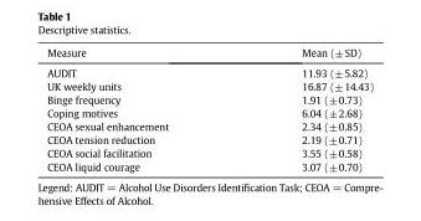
<table><thead><tr><td>Measure</td><td>Mean (±SD)</td></tr></thead><tbody><tr><td>AUDIT</td><td>11.93 (±5.82)</td></tr><tr><td>UK weekly units</td><td>16.87 (±14.43)</td></tr><tr><td>Binge frequency</td><td>1.91 (±0.73)</td></tr><tr><td>Coping motives</td><td>6.04 (±2.68)</td></tr><tr><td>CEOA sexual enhancement</td><td>2.34 (±0.85)</td></tr><tr><td>CEOA tension reduction</td><td>2.19 (±0.71)</td></tr><tr><td>CEOA social facilitation</td><td>3.55 (±0.58)</td></tr><tr><td>CEOA liquid courage</td><td>3.07 (±0.70)</td></tr></tbody></table>